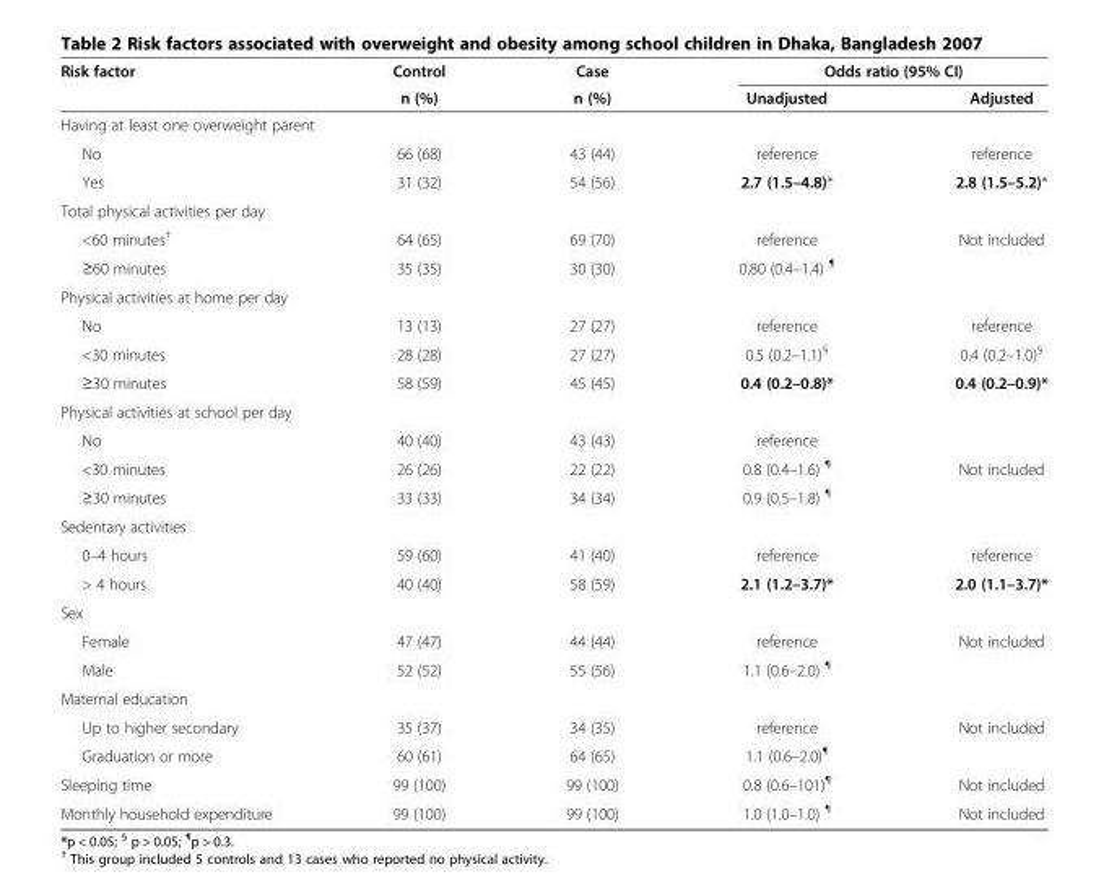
<table><thead><tr><td rowspan="2">Risk factor</td><td rowspan="2">Control n (%)</td><td rowspan="2">Case n (%)</td><td colspan="2">Odds ratio (95% CI)</td></tr><tr><td>Unadjusted</td><td>Adjusted</td></tr></thead><tbody><tr><td colspan="5">Having at least one overweight parent</td></tr><tr><td>No</td><td>66 (68)</td><td>43 (44)</td><td>reference</td><td>reference</td></tr><tr><td>Yes</td><td>31 (32)</td><td>54 (56)</td><td>2.7 (1.5–4.8)*</td><td>2.8 (1.5–5.2)*</td></tr><tr><td colspan="5">Total physical activities per day</td></tr><tr><td>&lt;60 minutes<sup>†</sup></td><td>64 (65)</td><td>69 (70)</td><td>reference</td><td>Not included</td></tr><tr><td>≥60 minutes</td><td>35 (35)</td><td>30 (30)</td><td>0.80 (0.4–1.4) <sup>¶</sup></td><td></td></tr><tr><td colspan="5">Physical activities at home per day</td></tr><tr><td>No</td><td>13 (13)</td><td>27 (27)</td><td>reference</td><td>reference</td></tr><tr><td>&lt;30 minutes</td><td>28 (28)</td><td>27 (27)</td><td>0.5 (0.2–1.1)<sup>§</sup></td><td>0.4 (0.2–1.0)<sup>§</sup></td></tr><tr><td>≥30 minutes</td><td>58 (59)</td><td>45 (45)</td><td>0.4 (0.2–0.8)*</td><td>0.4 (0.2–0.9)*</td></tr><tr><td colspan="5">Physical activities at school per day</td></tr><tr><td>No</td><td>40 (40)</td><td>43 (43)</td><td>reference</td><td></td></tr><tr><td>&lt;30 minutes</td><td>26 (26)</td><td>22 (22)</td><td>0.8 (0.4–1.6) <sup>¶</sup></td><td>Not included</td></tr><tr><td>≥30 minutes</td><td>33 (33)</td><td>34 (34)</td><td>0.9 (0.5–1.8) <sup>¶</sup></td><td></td></tr><tr><td colspan="5">Sedentary activities</td></tr><tr><td>0–4 hours</td><td>59 (60)</td><td>41 (40)</td><td>reference</td><td>reference</td></tr><tr><td>&gt; 4 hours</td><td>40 (40)</td><td>58 (59)</td><td>2.1 (1.2–3.7)*</td><td>2.0 (1.1–3.7)*</td></tr><tr><td colspan="5">Sex</td></tr><tr><td>Female</td><td>47 (47)</td><td>44 (44)</td><td>reference</td><td>Not included</td></tr><tr><td>Male</td><td>52 (52)</td><td>55 (56)</td><td>1.1 (0.6–2.0) <sup>¶</sup></td><td></td></tr><tr><td colspan="5">Maternal education</td></tr><tr><td>Up to higher secondary</td><td>35 (37)</td><td>34 (35)</td><td>reference</td><td>Not included</td></tr><tr><td>Graduation or more</td><td>60 (61)</td><td>64 (65)</td><td>1.1 (0.6–2.0)<sup>¶</sup></td><td></td></tr><tr><td>Sleeping time</td><td>99 (100)</td><td>99 (100)</td><td>0.8 (0.6–101)<sup>¶</sup></td><td>Not included</td></tr><tr><td>Monthly household expenditure</td><td>99 (100)</td><td>99 (100)</td><td>1.0 (1.0–1.0) <sup>¶</sup></td><td>Not included</td></tr></tbody></table>